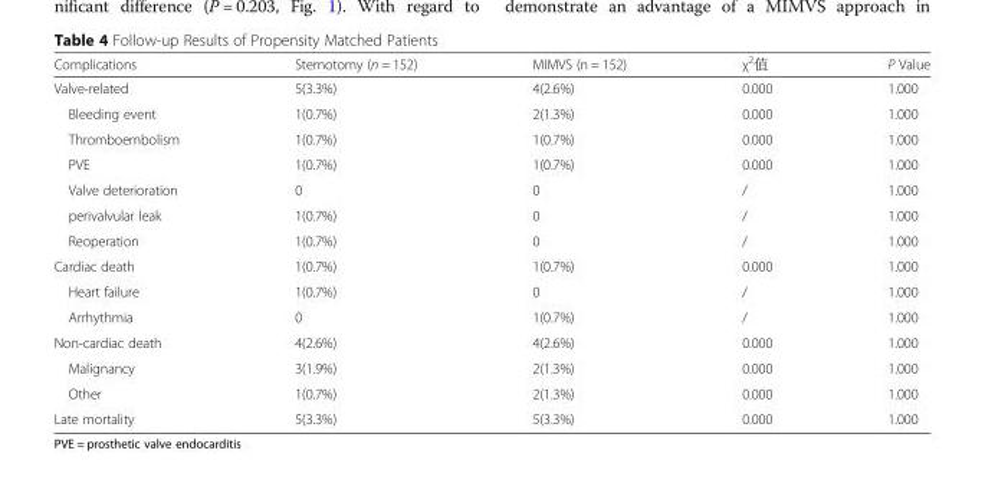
<table><thead><tr><td>Complications</td><td>Sternotomy (n = 152)</td><td>MIMVS (n = 152)</td><td>χ<sup>2</sup>值</td><td>P Value</td></tr></thead><tbody><tr><td>Valve-related</td><td>5(3.3%)</td><td>4(2.6%)</td><td>0.000</td><td>1.000</td></tr><tr><td>Bleeding event</td><td>1(0.7%)</td><td>2(1.3%)</td><td>0.000</td><td>1.000</td></tr><tr><td>Thromboembolism</td><td>1(0.7%)</td><td>1(0.7%)</td><td>0.000</td><td>1.000</td></tr><tr><td>PVE</td><td>1(0.7%)</td><td>1(0.7%)</td><td>0.000</td><td>1.000</td></tr><tr><td>Valve deterioration</td><td>0</td><td>0</td><td>/</td><td>1.000</td></tr><tr><td>perivalvular leak</td><td>1(0.7%)</td><td>0</td><td>/</td><td>1.000</td></tr><tr><td>Reoperation</td><td>1(0.7%)</td><td>0</td><td>/</td><td>1.000</td></tr><tr><td>Cardiac death</td><td>1(0.7%)</td><td>1(0.7%)</td><td>0.000</td><td>1.000</td></tr><tr><td>Heart failure</td><td>1(0.7%)</td><td>0</td><td>/</td><td>1.000</td></tr><tr><td>Arrhythmia</td><td>0</td><td>1(0.7%)</td><td>/</td><td>1.000</td></tr><tr><td>Non-cardiac death</td><td>4(2.6%)</td><td>4(2.6%)</td><td>0.000</td><td>1.000</td></tr><tr><td>Malignancy</td><td>3(1.9%)</td><td>2(1.3%)</td><td>0.000</td><td>1.000</td></tr><tr><td>Other</td><td>1(0.7%)</td><td>2(1.3%)</td><td>0.000</td><td>1.000</td></tr><tr><td>Late mortality</td><td>5(3.3%)</td><td>5(3.3%)</td><td>0.000</td><td>1.000</td></tr></tbody></table>